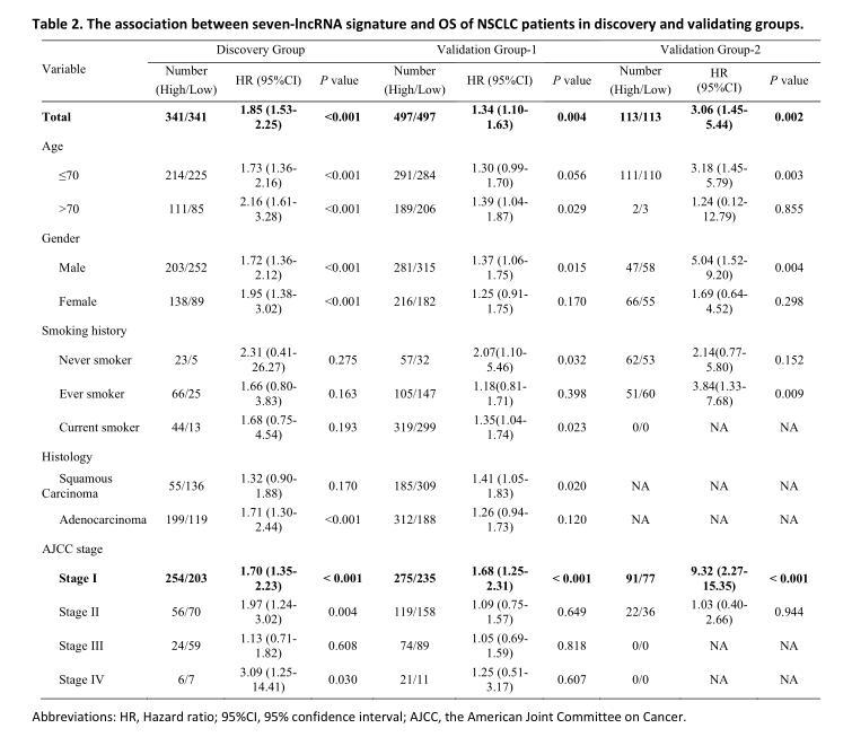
<table><tbody><tr><td rowspan="2">Variable</td><td colspan="3">Discovery Group</td><td colspan="3">Validation Group-1</td><td colspan="3">Validation Group-2</td></tr><tr><td>Number (High/Low)</td><td>HR (95%CI)</td><td>P value</td><td>Number (High/Low)</td><td>HR (95%CI)</td><td>P value</td><td>Number (High/Low)</td><td>HR (95%CI)</td><td>P value</td></tr><tr><td>Total</td><td>341/341</td><td>1.85 (1.53- 2.25)</td><td>&lt;0.001</td><td>497/497</td><td>1.34 (1.10- 1.63)</td><td>0.004</td><td>113/113</td><td>3.06 (1.45- 5.44)</td><td>0.002</td></tr><tr><td colspan="10">Age</td></tr><tr><td>≤70</td><td>214/225</td><td>1.73 (1.36- 2.16)</td><td>&lt;0.001</td><td>291/284</td><td>1.30 (0.99- 1.70)</td><td>0.056</td><td>111/110</td><td>3.18 (1.45- 5.79)</td><td>0.003</td></tr><tr><td>&gt;70</td><td>111/85</td><td>2.16 (1.61- 3.28)</td><td>&lt;0.001</td><td>189/206</td><td>1.39 (1.04- 1.87)</td><td>0.029</td><td>2/3</td><td>1.24 (0.12- 12.79)</td><td>0.855</td></tr><tr><td colspan="10">Gender</td></tr><tr><td>Male</td><td>203/252</td><td>1.72 (1.36- 2.12)</td><td>&lt;0.001</td><td>281/315</td><td>1.37 (1.06- 1.75)</td><td>0.015</td><td>47/58</td><td>5.04 (1.52- 9.20)</td><td>0.004</td></tr><tr><td>Female</td><td>138/89</td><td>1.95 (1.38- 3.02)</td><td>&lt;0.001</td><td>216/182</td><td>1.25 (0.91- 1.75)</td><td>0.170</td><td>66/55</td><td>1.69 (0.64- 4.52)</td><td>0.298</td></tr><tr><td colspan="10">Smoking history</td></tr><tr><td>Never smoker</td><td>23/5</td><td>2.31 (0.41- 26.27)</td><td>0.275</td><td>57/32</td><td>2.07(1.10- 5.46)</td><td>0.032</td><td>62/53</td><td>2.14(0.77- 5.80)</td><td>0.152</td></tr><tr><td>Ever smoker</td><td>66/25</td><td>1.66 (0.80- 3.83)</td><td>0.163</td><td>105/147</td><td>1.18(0.81- 1.71)</td><td>0.398</td><td>51/60</td><td>3.84(1.33- 7.68)</td><td>0.009</td></tr><tr><td>Current smoker</td><td>44/13</td><td>1.68 (0.75- 4.54)</td><td>0.193</td><td>319/299</td><td>1.35(1.04- 1.74)</td><td>0.023</td><td>0/0</td><td>NA</td><td>NA</td></tr><tr><td colspan="10">Histology</td></tr><tr><td>Squamous Carcinoma</td><td>55/136</td><td>1.32 (0.90- 1.88)</td><td>0.170</td><td>185/309</td><td>1.41 (1.05- 1.83)</td><td>0.020</td><td>NA</td><td>NA</td><td>NA</td></tr><tr><td>Adenocarcinoma</td><td>199/119</td><td>1.71 (1.30- 2.44)</td><td>&lt;0.001</td><td>312/188</td><td>1.26 (0.94- 1.73)</td><td>0.120</td><td>NA</td><td>NA</td><td>NA</td></tr><tr><td colspan="10">AJCC stage</td></tr><tr><td>Stage I</td><td>254/203</td><td>1.70 (1.35- 2.23)</td><td>&lt; 0.001</td><td>275/235</td><td>1.68 (1.25- 2.31)</td><td>&lt; 0.001</td><td>91/77</td><td>9.32 (2.27- 15.35)</td><td>&lt; 0.001</td></tr><tr><td>Stage II</td><td>56/70</td><td>1.97 (1.24- 3.02)</td><td>0.004</td><td>119/158</td><td>1.09 (0.75- 1.57)</td><td>0.649</td><td>22/36</td><td>1.03 (0.40- 2.66)</td><td>0.944</td></tr><tr><td>Stage III</td><td>24/59</td><td>1.13 (0.71- 1.82)</td><td>0.608</td><td>74/89</td><td>1.05 (0.69- 1.59)</td><td>0.818</td><td>0/0</td><td>NA</td><td>NA</td></tr><tr><td>Stage IV</td><td>6/7</td><td>3.09 (1.25- 14.41)</td><td>0.030</td><td>21/11</td><td>1.25 (0.51- 3.17)</td><td>0.607</td><td>0/0</td><td>NA</td><td>NA</td></tr></tbody></table>